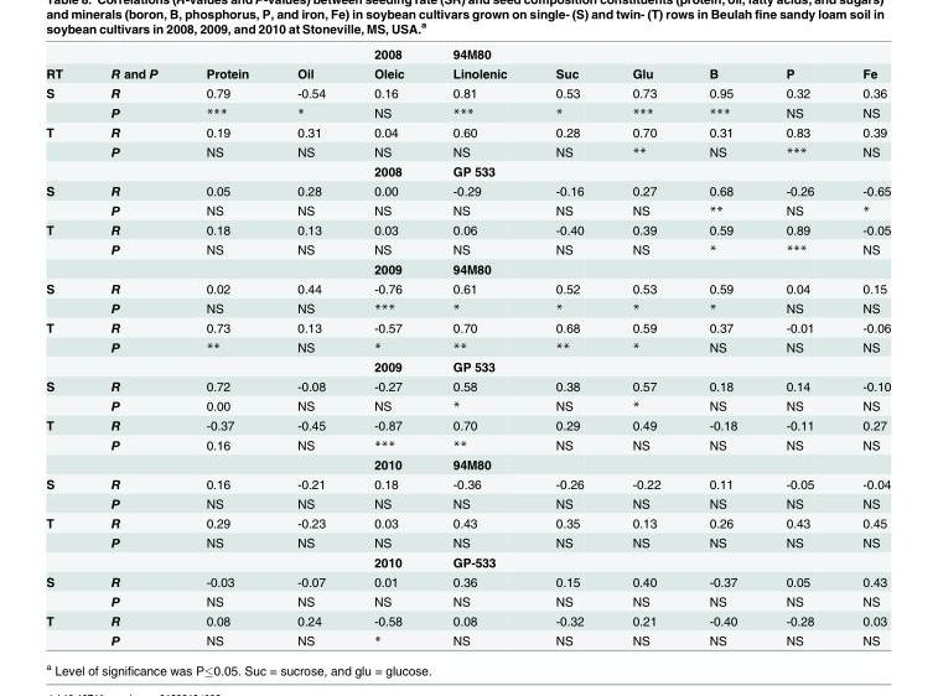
<table><thead><tr><td></td><td></td><td></td><td></td><td>2008</td><td>94M80</td><td></td><td></td><td></td><td></td><td></td></tr></thead><tbody><tr><td>RT</td><td>R and P</td><td>Protein</td><td>Oil</td><td>Oleic</td><td>Linolenic</td><td>Suc</td><td>Glu</td><td>B</td><td>P</td><td>Fe</td></tr><tr><td rowspan="2">S</td><td>R</td><td>0.79</td><td>-0.54</td><td>0.16</td><td>0.81</td><td>0.53</td><td>0.73</td><td>0.95</td><td>0.32</td><td>0.36</td></tr><tr><td>P</td><td>***</td><td>*</td><td>NS</td><td>***</td><td>*</td><td>***</td><td>***</td><td>NS</td><td>NS</td></tr><tr><td rowspan="3">T</td><td>R</td><td>0.19</td><td>0.31</td><td>0.04</td><td>0.60</td><td>0.28</td><td>0.70</td><td>0.31</td><td>0.83</td><td>0.39</td></tr><tr><td>P</td><td>NS</td><td>NS</td><td>NS</td><td>NS</td><td>NS</td><td>**</td><td>NS</td><td>***</td><td>NS</td></tr><tr><td></td><td></td><td></td><td>2008</td><td>GP 533</td><td></td><td></td><td></td><td></td><td></td></tr><tr><td rowspan="2">S</td><td>R</td><td>0.05</td><td>0.28</td><td>0.00</td><td>-0.29</td><td>-0.16</td><td>0.27</td><td>0.68</td><td>-0.26</td><td>-0.65</td></tr><tr><td>P</td><td>NS</td><td>NS</td><td>NS</td><td>NS</td><td>NS</td><td>NS</td><td>**</td><td>NS</td><td>*</td></tr><tr><td rowspan="3">T</td><td>R</td><td>0.18</td><td>0.13</td><td>0.03</td><td>0.06</td><td>-0.40</td><td>0.39</td><td>0.59</td><td>0.89</td><td>-0.05</td></tr><tr><td>P</td><td>NS</td><td>NS</td><td>NS</td><td>NS</td><td>NS</td><td>NS</td><td>*</td><td>***</td><td>NS</td></tr><tr><td></td><td></td><td></td><td>2009</td><td>94M80</td><td></td><td></td><td></td><td></td><td></td></tr><tr><td rowspan="2">S</td><td>R</td><td>0.02</td><td>0.44</td><td>-0.76</td><td>0.61</td><td>0.52</td><td>0.53</td><td>0.59</td><td>0.04</td><td>0.15</td></tr><tr><td>P</td><td>NS</td><td>NS</td><td>***</td><td>*</td><td>*</td><td>*</td><td>*</td><td>NS</td><td>NS</td></tr><tr><td rowspan="3">T</td><td>R</td><td>0.73</td><td>0.13</td><td>-0.57</td><td>0.70</td><td>0.68</td><td>0.59</td><td>0.37</td><td>-0.01</td><td>-0.06</td></tr><tr><td>P</td><td>**</td><td>NS</td><td>*</td><td>**</td><td>**</td><td>*</td><td>NS</td><td>NS</td><td>NS</td></tr><tr><td></td><td></td><td></td><td>2009</td><td>GP 533</td><td></td><td></td><td></td><td></td><td></td></tr><tr><td rowspan="2">S</td><td>R</td><td>0.72</td><td>-0.08</td><td>-0.27</td><td>0.58</td><td>0.38</td><td>0.57</td><td>0.18</td><td>0.14</td><td>-0.10</td></tr><tr><td>P</td><td>0.00</td><td>NS</td><td>NS</td><td>*</td><td>NS</td><td>*</td><td>NS</td><td>NS</td><td>NS</td></tr><tr><td rowspan="3">T</td><td>R</td><td>-0.37</td><td>-0.45</td><td>-0.87</td><td>0.70</td><td>0.29</td><td>0.49</td><td>-0.18</td><td>-0.11</td><td>0.27</td></tr><tr><td>P</td><td>0.16</td><td>NS</td><td>***</td><td>**</td><td>NS</td><td>NS</td><td>NS</td><td>NS</td><td>NS</td></tr><tr><td></td><td></td><td></td><td>2010</td><td>94M80</td><td></td><td></td><td></td><td></td><td></td></tr><tr><td rowspan="2">S</td><td>R</td><td>0.16</td><td>-0.21</td><td>0.18</td><td>-0.36</td><td>-0.26</td><td>-0.22</td><td>0.11</td><td>-0.05</td><td>-0.04</td></tr><tr><td>P</td><td>NS</td><td>NS</td><td>NS</td><td>NS</td><td>NS</td><td>NS</td><td>NS</td><td>NS</td><td>NS</td></tr><tr><td rowspan="3">T</td><td>R</td><td>0.29</td><td>-0.23</td><td>0.03</td><td>0.43</td><td>0.35</td><td>0.13</td><td>0.26</td><td>0.43</td><td>0.45</td></tr><tr><td>P</td><td>NS</td><td>NS</td><td>NS</td><td>NS</td><td>NS</td><td>NS</td><td>NS</td><td>NS</td><td>NS</td></tr><tr><td></td><td></td><td></td><td>2010</td><td>GP-533</td><td></td><td></td><td></td><td></td><td></td></tr><tr><td rowspan="2">S</td><td>R</td><td>-0.03</td><td>-0.07</td><td>0.01</td><td>0.36</td><td>0.15</td><td>0.40</td><td>-0.37</td><td>0.05</td><td>0.43</td></tr><tr><td>P</td><td>NS</td><td>NS</td><td>NS</td><td>NS</td><td>NS</td><td>NS</td><td>NS</td><td>NS</td><td>NS</td></tr><tr><td rowspan="2">T</td><td>R</td><td>0.08</td><td>0.24</td><td>-0.58</td><td>0.08</td><td>-0.32</td><td>0.21</td><td>-0.40</td><td>-0.28</td><td>0.03</td></tr><tr><td>P</td><td>NS</td><td>NS</td><td>*</td><td>NS</td><td>NS</td><td>NS</td><td>NS</td><td>NS</td><td>NS</td></tr></tbody></table>